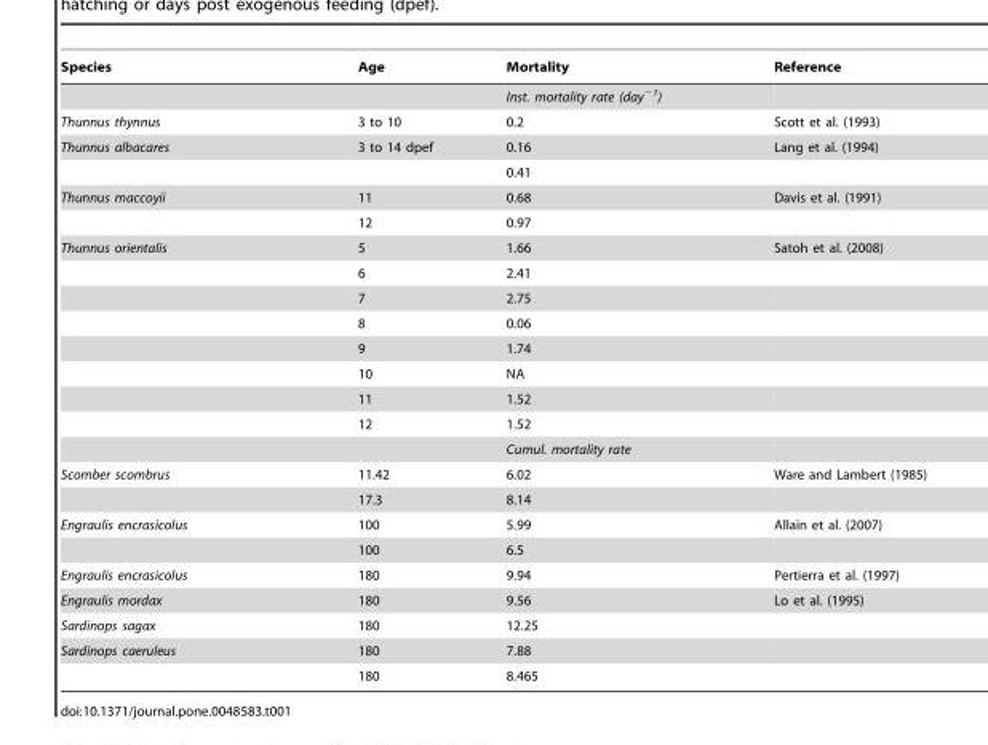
<table><thead><tr><td>Species</td><td>Age</td><td>Mortality</td><td>Reference</td></tr></thead><tbody><tr><td></td><td></td><td>Inst. mortality rate (day<sup>−1</sup>)</td><td></td></tr><tr><td>Thunnus thynnus</td><td>3 to 10</td><td>0.2</td><td>Scott et al. (1993)</td></tr><tr><td rowspan="2">Thunnus albacares</td><td>3 to 14 dpef</td><td>0.16</td><td>Lang et al. (1994)</td></tr><tr><td></td><td>0.41</td><td></td></tr><tr><td rowspan="2">Thunnus maccoyii</td><td>11</td><td>0.68</td><td>Davis et al. (1991)</td></tr><tr><td>12</td><td>0.97</td><td></td></tr><tr><td rowspan="9">Thunnus orientalis</td><td>5</td><td>1.66</td><td>Satoh et al. (2008)</td></tr><tr><td>6</td><td>2.41</td><td></td></tr><tr><td>7</td><td>2.75</td><td></td></tr><tr><td>8</td><td>0.06</td><td></td></tr><tr><td>9</td><td>1.74</td><td></td></tr><tr><td>10</td><td>NA</td><td></td></tr><tr><td>11</td><td>1.52</td><td></td></tr><tr><td>12</td><td>1.52</td><td></td></tr><tr><td></td><td>Cumul. mortality rate</td><td></td></tr><tr><td rowspan="2">Scomber scombrus</td><td>11.42</td><td>6.02</td><td>Ware and Lambert (1985)</td></tr><tr><td>17.3</td><td>8.14</td><td></td></tr><tr><td rowspan="2">Engraulis encrasicolus</td><td>100</td><td>5.99</td><td>Allain et al. (2007)</td></tr><tr><td>100</td><td>6.5</td><td></td></tr><tr><td>Engraulis encrasicolus</td><td>180</td><td>9.94</td><td>Pertierra et al. (1997)</td></tr><tr><td>Engraulis mordax</td><td>180</td><td>9.56</td><td>Lo et al. (1995)</td></tr><tr><td>Sardinops sagax</td><td>180</td><td>12.25</td><td></td></tr><tr><td rowspan="2">Sardinops caeruleus</td><td>180</td><td>7.88</td><td></td></tr><tr><td>180</td><td>8.465</td><td></td></tr></tbody></table>